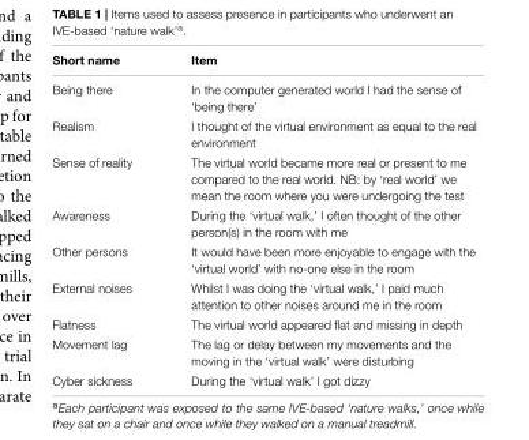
<table><thead><tr><td>Short name</td><td>Item</td></tr></thead><tbody><tr><td>Being there</td><td>In the computer generated world I had the sense of ‘being there’</td></tr><tr><td>Realism</td><td>I thought of the virtual environment as equal to the real environment</td></tr><tr><td>Sense of reality</td><td>The virtual world became more real or present to me compared to the real world. NB: by ‘real world’ we mean the room where you were undergoing the test</td></tr><tr><td>Awareness</td><td>During the ‘virtual walk,’ I often thought of the other person(s) in the room with me</td></tr><tr><td>Other persons</td><td>It would have been more enjoyable to engage with the ‘virtual world’ with no-one else in the room</td></tr><tr><td>External noises</td><td>Whilst I was doing the ‘virtual walk,’ I paid much attention to other noises around me in the room</td></tr><tr><td>Flatness</td><td>The virtual world appeared flat and missing in depth</td></tr><tr><td>Movement lag</td><td>The lag or delay between my movements and the moving in the ‘virtual walk’ were disturbing</td></tr><tr><td>Cyber sickness</td><td>During the ‘virtual walk’ I got dizzy</td></tr></tbody></table>